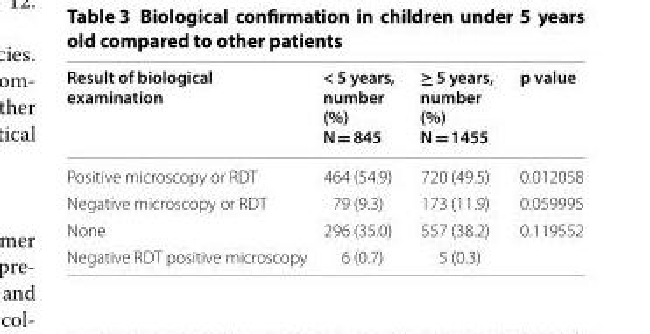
<table><thead><tr><td>Result of biological examination</td><td>&lt; 5 years, number (%) N = 845</td><td>≥ 5 years, number (%) N = 1455</td><td>p value</td></tr></thead><tbody><tr><td>Positive microscopy or RDT</td><td>464 (54.9)</td><td>720 (49.5)</td><td>0.012058</td></tr><tr><td>Negative microscopy or RDT</td><td>79 (9.3)</td><td>173 (11.9)</td><td>0.059995</td></tr><tr><td>None</td><td>296 (35.0)</td><td>557 (38.2)</td><td>0.119552</td></tr><tr><td>Negative RDT positive microscopy</td><td>6 (0.7)</td><td>5 (0.3)</td><td></td></tr></tbody></table>